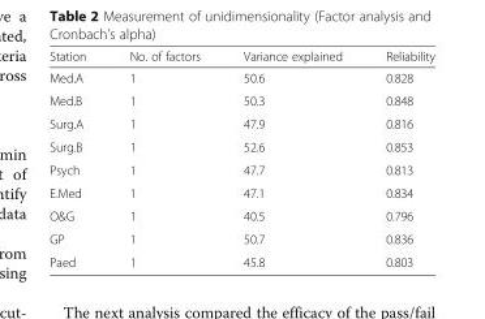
<table><thead><tr><td>Station</td><td>No. of factors</td><td>Variance explained</td><td>Reliability</td></tr></thead><tbody><tr><td>Med.A</td><td>1</td><td>50.6</td><td>0.828</td></tr><tr><td>Med.B</td><td>1</td><td>50.3</td><td>0.848</td></tr><tr><td>Surg.A</td><td>1</td><td>47.9</td><td>0.816</td></tr><tr><td>Surg.B</td><td>1</td><td>52.6</td><td>0.853</td></tr><tr><td>Psych</td><td>1</td><td>47.7</td><td>0.813</td></tr><tr><td>E.Med</td><td>1</td><td>47.1</td><td>0.834</td></tr><tr><td>O&amp;G</td><td>1</td><td>40.5</td><td>0.796</td></tr><tr><td>GP</td><td>1</td><td>50.7</td><td>0.836</td></tr><tr><td>Paed</td><td>1</td><td>45.8</td><td>0.803</td></tr></tbody></table>